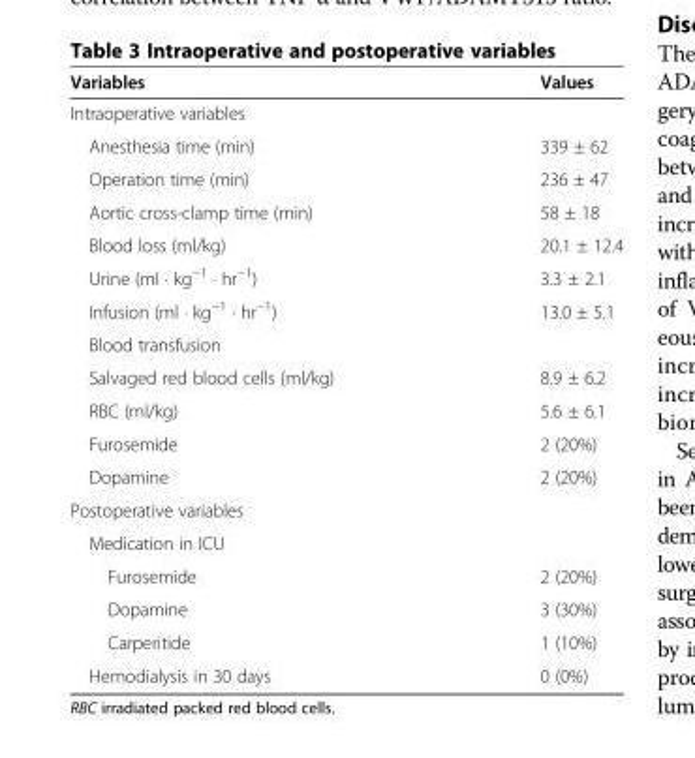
<table><thead><tr><td>Variables</td><td>Values</td></tr></thead><tbody><tr><td colspan="2">Intraoperative variables</td></tr><tr><td>Anesthesia time (min)</td><td>339 ± 62</td></tr><tr><td>Operation time (min)</td><td>236 ± 47</td></tr><tr><td>Aortic cross-clamp time (min)</td><td>58 ± 18</td></tr><tr><td>Blood loss (ml/kg)</td><td>20.1 ± 12.4</td></tr><tr><td>Urine (ml · kg<sup>−1</sup> · hr<sup>−1</sup>)</td><td>3.3 ± 2.1</td></tr><tr><td>Infusion (ml · kg<sup>−1</sup> · hr<sup>−1</sup>)</td><td>13.0 ± 5.1</td></tr><tr><td colspan="2">Blood transfusion</td></tr><tr><td>Salvaged red blood cells (ml/kg)</td><td>8.9 ± 6.2</td></tr><tr><td>RBC (ml/kg)</td><td>5.6 ± 6.1</td></tr><tr><td>Furosemide</td><td>2 (20%)</td></tr><tr><td>Dopamine</td><td>2 (20%)</td></tr><tr><td colspan="2">Postoperative variables</td></tr><tr><td colspan="2">Medication in ICU</td></tr><tr><td>Furosemide</td><td>2 (20%)</td></tr><tr><td>Dopamine</td><td>3 (30%)</td></tr><tr><td>Carperitide</td><td>1 (10%)</td></tr><tr><td>Hemodialysis in 30 days</td><td>0 (0%)</td></tr></tbody></table>